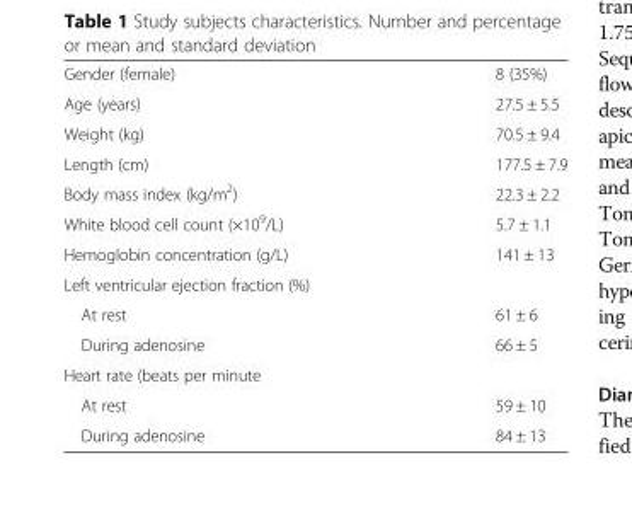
<table><tbody><tr><td>Gender (female)</td><td>8 (35%)</td></tr><tr><td>Age (years)</td><td>27.5 ± 5.5</td></tr><tr><td>Weight (kg)</td><td>70.5 ± 9.4</td></tr><tr><td>Length (cm)</td><td>177.5 ± 7.9</td></tr><tr><td>Body mass index (kg/m<sup>2</sup>)</td><td>22.3 ± 2.2</td></tr><tr><td>White blood cell count (×10<sup>9</sup>/L)</td><td>5.7 ± 1.1</td></tr><tr><td>Hemoglobin concentration (g/L)</td><td>141 ± 13</td></tr><tr><td colspan="2">Left ventricular ejection fraction (%)</td></tr><tr><td>At rest</td><td>61 ± 6</td></tr><tr><td>During adenosine</td><td>66 ± 5</td></tr><tr><td colspan="2">Heart rate (beats per minute</td></tr><tr><td>At rest</td><td>59 ± 10</td></tr><tr><td>During adenosine</td><td>84 ± 13</td></tr></tbody></table>